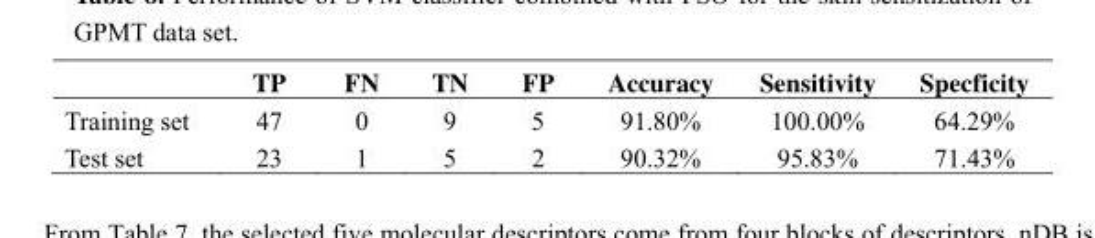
<table><thead><tr><td></td><td>TP</td><td>FN</td><td>TN</td><td>FP</td><td>Accuracy</td><td>Sensitivity</td><td>Specficity</td></tr></thead><tbody><tr><td>Training set</td><td>47</td><td>0</td><td>9</td><td>5</td><td>91.80%</td><td>100.00%</td><td>64.29%</td></tr><tr><td>Test set</td><td>23</td><td>1</td><td>5</td><td>2</td><td>90.32%</td><td>95.83%</td><td>71.43%</td></tr></tbody></table>